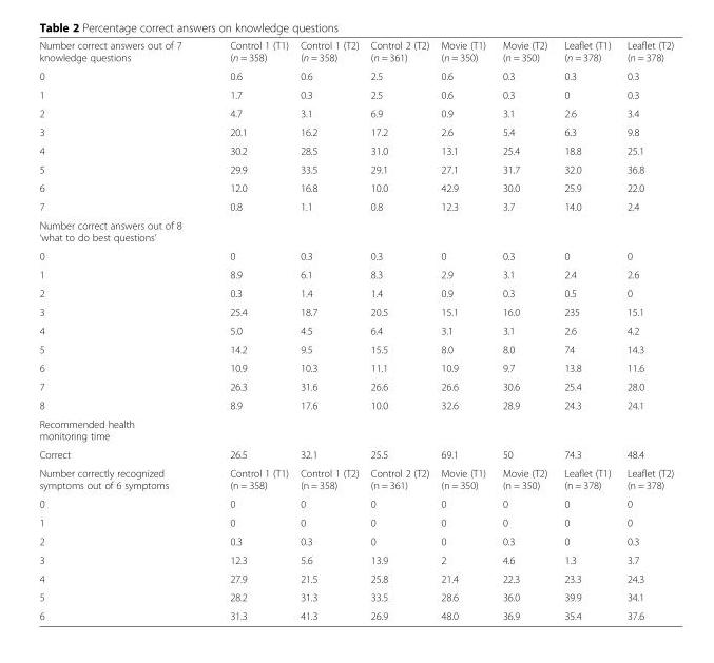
<table><tbody><tr><td>Number correct answers out of 7 knowledge questions</td><td>Control 1 (T1) (n = 358)</td><td>Control 1 (T2) (n = 358)</td><td>Control 2 (T2) (n = 361)</td><td>Movie (T1) (n = 350)</td><td>Movie (T2) (n = 350)</td><td>Leaflet (T1) (n = 378)</td><td>Leaflet (T2) (n = 378)</td></tr><tr><td>0</td><td>0.6</td><td>0.6</td><td>2.5</td><td>0.6</td><td>0.3</td><td>0.3</td><td>0.3</td></tr><tr><td>1</td><td>1.7</td><td>0.3</td><td>2.5</td><td>0.6</td><td>0.3</td><td>0</td><td>0.3</td></tr><tr><td>2</td><td>4.7</td><td>3.1</td><td>6.9</td><td>0.9</td><td>3.1</td><td>2.6</td><td>3.4</td></tr><tr><td>3</td><td>20.1</td><td>16.2</td><td>17.2</td><td>2.6</td><td>5.4</td><td>6.3</td><td>9.8</td></tr><tr><td>4</td><td>30.2</td><td>28.5</td><td>31.0</td><td>13.1</td><td>25.4</td><td>18.8</td><td>25.1</td></tr><tr><td>5</td><td>29.9</td><td>33.5</td><td>29.1</td><td>27.1</td><td>31.7</td><td>32.0</td><td>36.8</td></tr><tr><td>6</td><td>12.0</td><td>16.8</td><td>10.0</td><td>42.9</td><td>30.0</td><td>25.9</td><td>22.0</td></tr><tr><td>7</td><td>0.8</td><td>1.1</td><td>0.8</td><td>12.3</td><td>3.7</td><td>14.0</td><td>2.4</td></tr><tr><td colspan="8">Number correct answers out of 8 ‘what to do best questions’</td></tr><tr><td>0</td><td>0</td><td>0.3</td><td>0.3</td><td>0</td><td>0.3</td><td>0</td><td>0</td></tr><tr><td>1</td><td>8.9</td><td>6.1</td><td>8.3</td><td>2.9</td><td>3.1</td><td>2.4</td><td>2.6</td></tr><tr><td>2</td><td>0.3</td><td>1.4</td><td>1.4</td><td>0.9</td><td>0.3</td><td>0.5</td><td>0</td></tr><tr><td>3</td><td>25.4</td><td>18.7</td><td>20.5</td><td>15.1</td><td>16.0</td><td>235</td><td>15.1</td></tr><tr><td>4</td><td>5.0</td><td>4.5</td><td>6.4</td><td>3.1</td><td>3.1</td><td>2.6</td><td>4.2</td></tr><tr><td>5</td><td>14.2</td><td>9.5</td><td>15.5</td><td>8.0</td><td>8.0</td><td>74</td><td>14.3</td></tr><tr><td>6</td><td>10.9</td><td>10.3</td><td>11.1</td><td>10.9</td><td>9.7</td><td>13.8</td><td>11.6</td></tr><tr><td>7</td><td>26.3</td><td>31.6</td><td>26.6</td><td>26.6</td><td>30.6</td><td>25.4</td><td>28.0</td></tr><tr><td>8</td><td>8.9</td><td>17.6</td><td>10.0</td><td>32.6</td><td>28.9</td><td>24.3</td><td>24.1</td></tr><tr><td colspan="8">Recommended health monitoring time</td></tr><tr><td>Correct</td><td>26.5</td><td>32.1</td><td>25.5</td><td>69.1</td><td>50</td><td>74.3</td><td>48.4</td></tr><tr><td>Number correctly recognized symptoms out of 6 symptoms</td><td>Control 1 (T1) (n = 358)</td><td>Control 1 (T2) (n = 358)</td><td>Control 2 (T2) (n = 361)</td><td>Movie (T1) (n = 350)</td><td>Movie (T2) (n = 350)</td><td>Leaflet (T1) (n = 378)</td><td>Leaflet (T2) (n = 378)</td></tr><tr><td>0</td><td>0</td><td>0</td><td>0</td><td>0</td><td>0</td><td>0</td><td>0</td></tr><tr><td>1</td><td>0</td><td>0</td><td>0</td><td>0</td><td>0</td><td>0</td><td>0</td></tr><tr><td>2</td><td>0.3</td><td>0.3</td><td>0</td><td>0</td><td>0.3</td><td>0</td><td>0.3</td></tr><tr><td>3</td><td>12.3</td><td>5.6</td><td>13.9</td><td>2</td><td>4.6</td><td>1.3</td><td>3.7</td></tr><tr><td>4</td><td>27.9</td><td>21.5</td><td>25.8</td><td>21.4</td><td>22.3</td><td>23.3</td><td>24.3</td></tr><tr><td>5</td><td>28.2</td><td>31.3</td><td>33.5</td><td>28.6</td><td>36.0</td><td>39.9</td><td>34.1</td></tr><tr><td>6</td><td>31.3</td><td>41.3</td><td>26.9</td><td>48.0</td><td>36.9</td><td>35.4</td><td>37.6</td></tr></tbody></table>